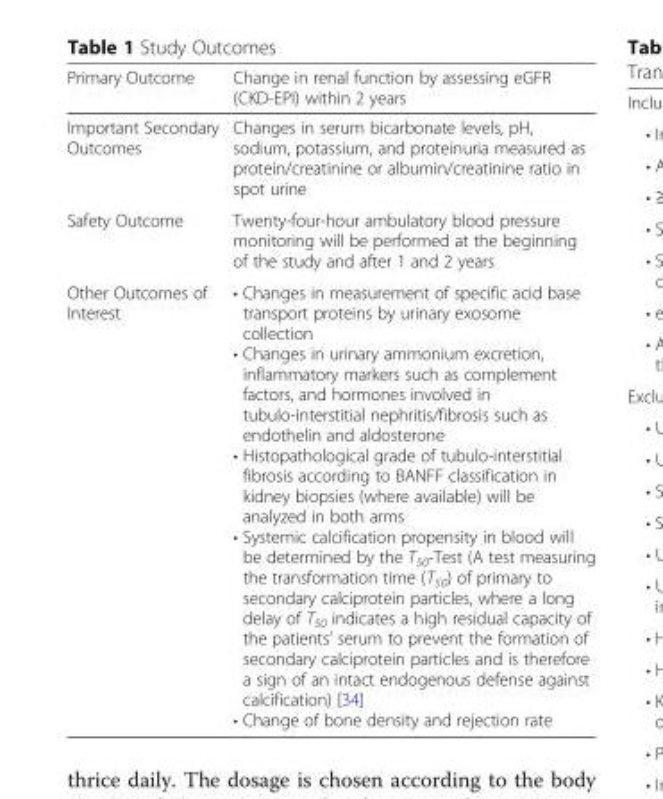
<table><thead><tr><td>Primary Outcome</td><td>Change in renal function by assessing eGFR (CKD-EPI) within 2 years</td></tr></thead><tbody><tr><td>Important Secondary Outcomes</td><td>Changes in serum bicarbonate levels, pH, sodium, potassium, and proteinuria measured as protein/creatinine or albumin/creatinine ratio in spot urine</td></tr><tr><td>Safety Outcome</td><td>Twenty-four-hour ambulatory blood pressure monitoring will be performed at the beginning of the study and after 1 and 2 years</td></tr><tr><td>Other Outcomes of Interest</td><td>• Changes in measurement of specific acid base transport proteins by urinary exosome collection • Changes in urinary ammonium excretion, inflammatory markers such as complement factors, and hormones involved in tubulo-interstitial nephritis/fibrosis such as endothelin and aldosterone • Histopathological grade of tubulo-interstitial fibrosis according to BANFF classification in kidney biopsies (where available) will be analyzed in both arms • Systemic calcification propensity in blood will be determined by the T<sub>50</sub>-Test (A test measuring the transformation time (T<sub>50</sub>) of primary to secondary calciprotein particles, where a long delay of T<sub>50</sub> indicates a high residual capacity of the patients’ serum to prevent the formation of secondary calciprotein particles and is therefore a sign of an intact endogenous defense against calcification) [34] • Change of bone density and rejection rate</td></tr></tbody></table>